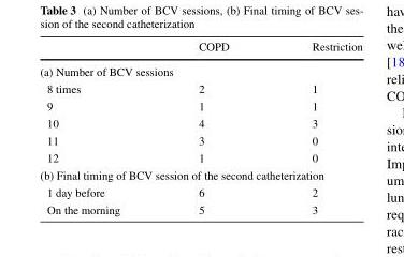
<table><thead><tr><td></td><td>COPD</td><td>Restriction</td></tr></thead><tbody><tr><td colspan="3">(a) Number of BCV sessions</td></tr><tr><td>8 times</td><td>2</td><td>1</td></tr><tr><td>9</td><td>1</td><td>1</td></tr><tr><td>10</td><td>4</td><td>3</td></tr><tr><td>11</td><td>3</td><td>0</td></tr><tr><td>12</td><td>1</td><td>0</td></tr><tr><td colspan="3">(b) Final timing of BCV session of the second catheterization</td></tr><tr><td>1 day before</td><td>6</td><td>2</td></tr><tr><td>On the morning</td><td>5</td><td>3</td></tr></tbody></table>